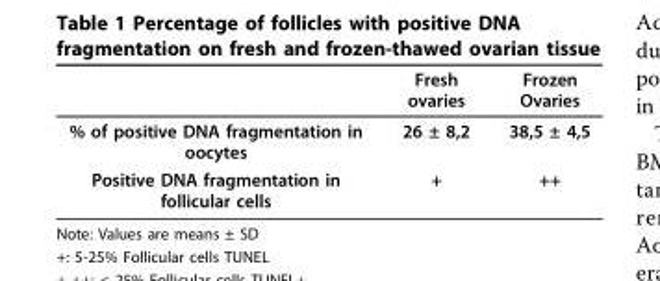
<table><thead><tr><td></td><td>Fresh ovaries</td><td>Frozen Ovaries</td></tr></thead><tbody><tr><td>% of positive DNA fragmentation in oocytes</td><td>26 ± 8,2</td><td>38,5 ± 4,5</td></tr><tr><td>Positive DNA fragmentation in follicular cells</td><td>+</td><td>++</td></tr></tbody></table>